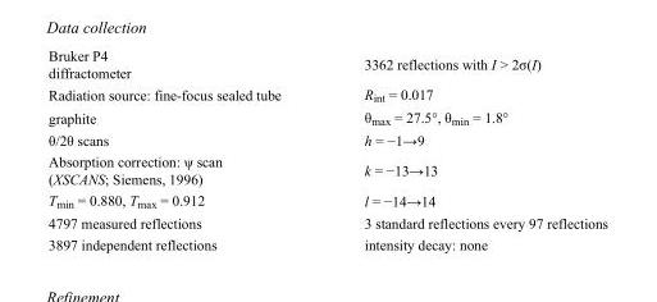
<table><tbody><tr><td>Bruker P4 diffractometer</td><td>3362 reflections with I &gt; 2σ(I)</td></tr><tr><td>Radiation source: fine-focus sealed tube</td><td>R<sub>int</sub> = 0.017</td></tr><tr><td>graphite</td><td>θ<sub>max</sub> = 27.5°, θ<sub>min</sub> = 1.8°</td></tr><tr><td>θ/2θ scans</td><td>h = −1→9</td></tr><tr><td>Absorption correction: ψ scan (XSCANS; Siemens, 1996)</td><td>k = −13→13</td></tr><tr><td>T<sub>min</sub> = 0.880, T<sub>max</sub> = 0.912</td><td>l = −14→14</td></tr><tr><td>4797 measured reflections</td><td>3 standard reflections every 97 reflections</td></tr><tr><td>3897 independent reflections</td><td>intensity decay: none</td></tr></tbody></table>